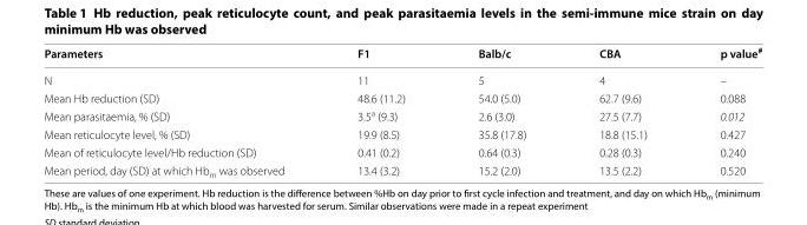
<table><thead><tr><td>Parameters</td><td>F1</td><td>Balb/c</td><td>CBA</td><td>p value<sup>#</sup></td></tr></thead><tbody><tr><td>N</td><td>11</td><td>5</td><td>4</td><td>–</td></tr><tr><td>Mean Hb reduction (SD)</td><td>48.6 (11.2)</td><td>54.0 (5.0)</td><td>62.7 (9.6)</td><td>0.088</td></tr><tr><td>Mean parasitaemia, % (SD)</td><td>3.5<sup>a</sup> (9.3)</td><td>2.6 (3.0)</td><td>27.5 (7.7)</td><td>0.012</td></tr><tr><td>Mean reticulocyte level, % (SD)</td><td>19.9 (8.5)</td><td>35.8 (17.8)</td><td>18.8 (15.1)</td><td>0.427</td></tr><tr><td>Mean of reticulocyte level/Hb reduction (SD)</td><td>0.41 (0.2)</td><td>0.64 (0.3)</td><td>0.28 (0.3)</td><td>0.240</td></tr><tr><td>Mean period, day (SD) at which Hb<sub>m</sub> was observed</td><td>13.4 (3.2)</td><td>15.2 (2.0)</td><td>13.5 (2.2)</td><td>0.520</td></tr></tbody></table>